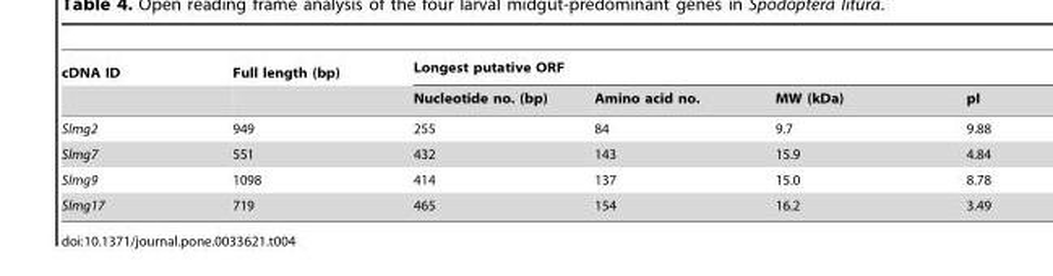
<table><thead><tr><td rowspan="2">cDNA ID</td><td rowspan="2">Full length (bp)</td><td colspan="4">Longest putative ORF</td></tr><tr><td>Nucleotide no. (bp)</td><td>Amino acid no.</td><td>MW (kDa)</td><td>pI</td></tr></thead><tbody><tr><td>Slmg2</td><td>949</td><td>255</td><td>84</td><td>9.7</td><td>9.88</td></tr><tr><td>Slmg7</td><td>551</td><td>432</td><td>143</td><td>15.9</td><td>4.84</td></tr><tr><td>Slmg9</td><td>1098</td><td>414</td><td>137</td><td>15.0</td><td>8.78</td></tr><tr><td>Slmg17</td><td>719</td><td>465</td><td>154</td><td>16.2</td><td>3.49</td></tr></tbody></table>